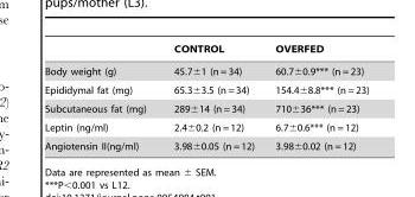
<table><thead><tr><td></td><td>CONTROL</td><td>OVERFED</td></tr></thead><tbody><tr><td>Body weight (g)</td><td>45.7±1 (n = 34)</td><td>60.7±0.9*** (n = 23)</td></tr><tr><td>Epididymal fat (mg)</td><td>65.3±3.5 (n = 34)</td><td>154.4±8.8*** (n = 23)</td></tr><tr><td>Subcutaneous fat (mg)</td><td>289±14 (n = 34)</td><td>710±36*** (n = 23)</td></tr><tr><td>Leptin (ng/ml)</td><td>2.4±0.2 (n = 12)</td><td>6.7±0.6*** (n = 12)</td></tr><tr><td>Angiotensin II(ng/ml)</td><td>3.98±0.05 (n = 12)</td><td>3.98±0.02 (n = 12)</td></tr></tbody></table>